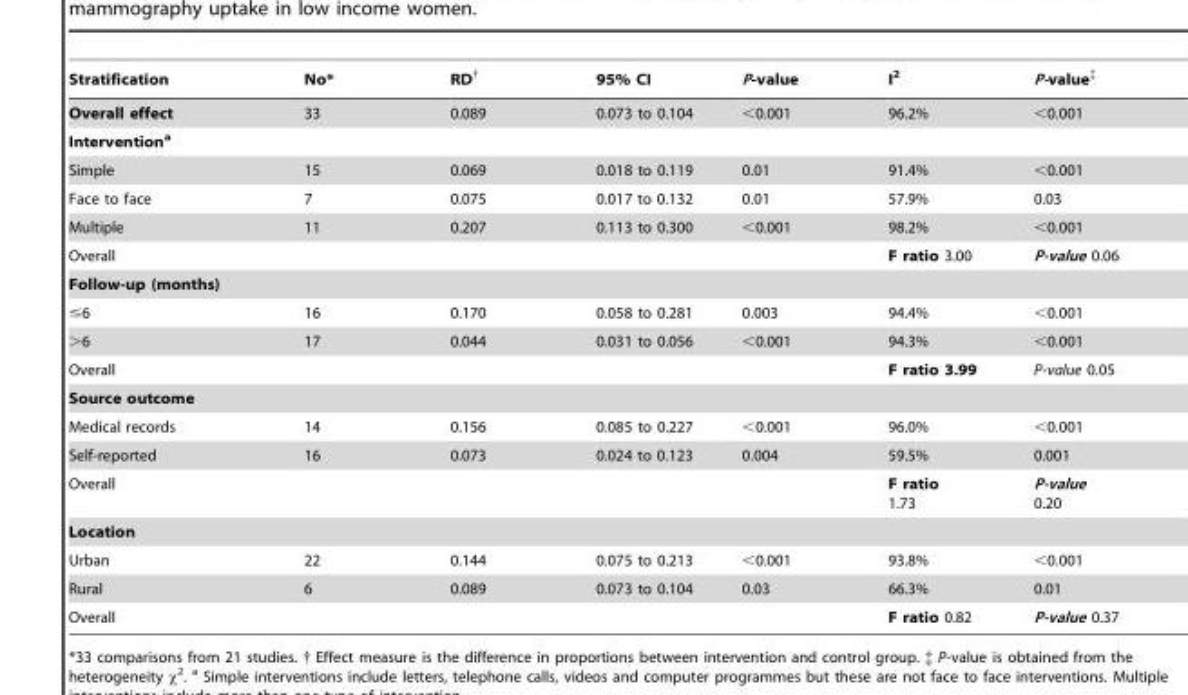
<table><thead><tr><td>Stratification</td><td>No*</td><td>RD<sup>†</sup></td><td>95% CI</td><td>P-value</td><td>I<sup>2</sup></td><td>P-value<sup>‡</sup></td></tr></thead><tbody><tr><td>Overall effect</td><td>33</td><td>0.089</td><td>0.073 to 0.104</td><td>&lt;0.001</td><td>96.2%</td><td>&lt;0.001</td></tr><tr><td colspan="7">Intervention<sup>a</sup></td></tr><tr><td>Simple</td><td>15</td><td>0.069</td><td>0.018 to 0.119</td><td>0.01</td><td>91.4%</td><td>&lt;0.001</td></tr><tr><td>Face to face</td><td>7</td><td>0.075</td><td>0.017 to 0.132</td><td>0.01</td><td>57.9%</td><td>0.03</td></tr><tr><td>Multiple</td><td>11</td><td>0.207</td><td>0.113 to 0.300</td><td>&lt;0.001</td><td>98.2%</td><td>&lt;0.001</td></tr><tr><td>Overall</td><td></td><td></td><td></td><td></td><td>F ratio 3.00</td><td>P-value 0.06</td></tr><tr><td colspan="7">Follow-up (months)</td></tr><tr><td>≤6</td><td>16</td><td>0.170</td><td>0.058 to 0.281</td><td>0.003</td><td>94.4%</td><td>&lt;0.001</td></tr><tr><td>&gt;6</td><td>17</td><td>0.044</td><td>0.031 to 0.056</td><td>&lt;0.001</td><td>94.3%</td><td>&lt;0.001</td></tr><tr><td>Overall</td><td></td><td></td><td></td><td></td><td>F ratio 3.99</td><td>P-value 0.05</td></tr><tr><td colspan="7">Source outcome</td></tr><tr><td>Medical records</td><td>14</td><td>0.156</td><td>0.085 to 0.227</td><td>&lt;0.001</td><td>96.0%</td><td>&lt;0.001</td></tr><tr><td>Self-reported</td><td>16</td><td>0.073</td><td>0.024 to 0.123</td><td>0.004</td><td>59.5%</td><td>0.001</td></tr><tr><td>Overall</td><td></td><td></td><td></td><td></td><td>F ratio 1.73</td><td>P-value 0.20</td></tr><tr><td colspan="7">Location</td></tr><tr><td>Urban</td><td>22</td><td>0.144</td><td>0.075 to 0.213</td><td>&lt;0.001</td><td>93.8%</td><td>&lt;0.001</td></tr><tr><td>Rural</td><td>6</td><td>0.089</td><td>0.073 to 0.104</td><td>0.03</td><td>66.3%</td><td>0.01</td></tr><tr><td>Overall</td><td></td><td></td><td></td><td></td><td>F ratio 0.82</td><td>P-value 0.37</td></tr></tbody></table>